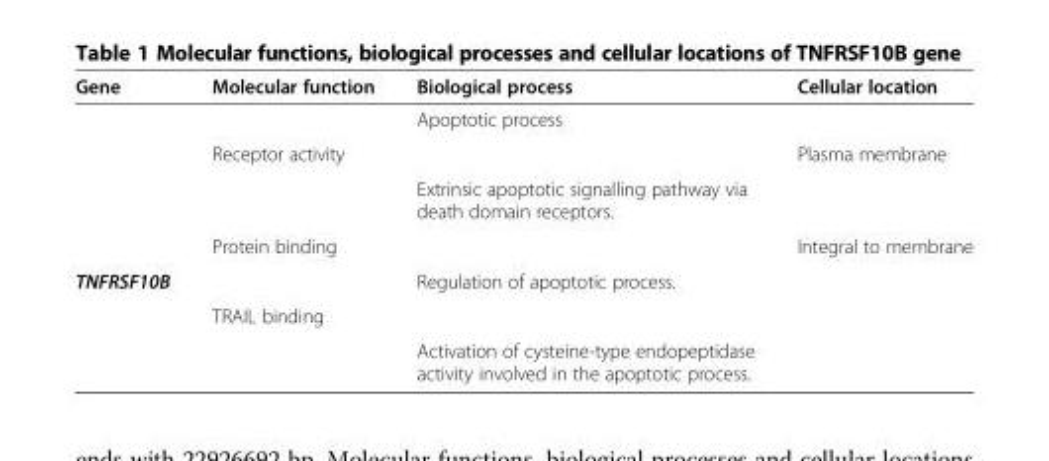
<table><thead><tr><td>Gene</td><td>Molecular function</td><td>Biological process</td><td>Cellular location</td></tr></thead><tbody><tr><td></td><td></td><td>Apoptotic process</td><td></td></tr><tr><td></td><td>Receptor activity</td><td></td><td>Plasma membrane</td></tr><tr><td></td><td></td><td>Extrinsic apoptotic signalling pathway via death domain receptors.</td><td></td></tr><tr><td></td><td>Protein binding</td><td></td><td>Integral to membrane</td></tr><tr><td rowspan="3">TNFRSF10B</td><td></td><td>Regulation of apoptotic process.</td><td></td></tr><tr><td>TRAIL binding</td><td></td><td></td></tr><tr><td></td><td>Activation of cysteine-type endopeptidase activity involved in the apoptotic process.</td><td></td></tr></tbody></table>